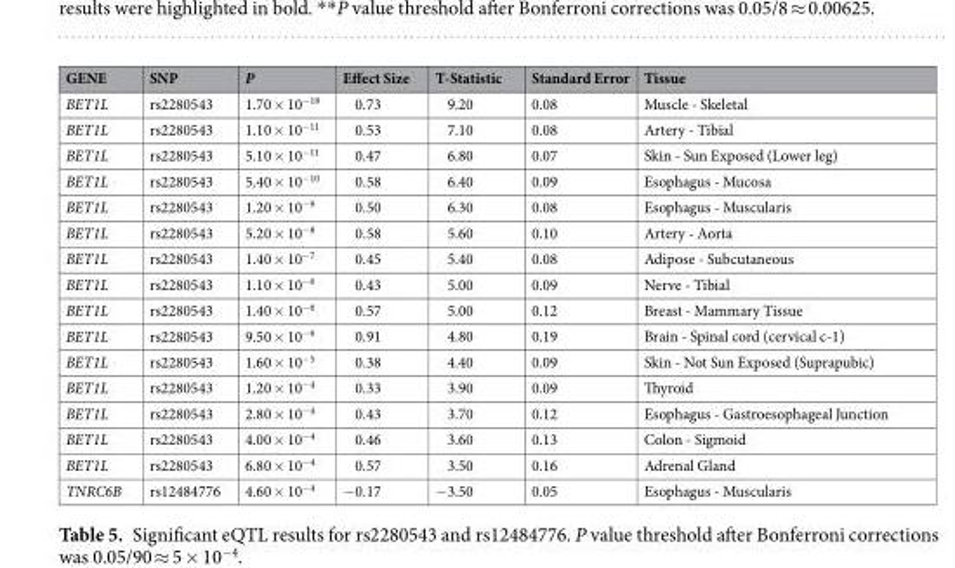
<table><thead><tr><td>GENE</td><td>SNP</td><td>P</td><td>Effect Size</td><td>T-Statistic</td><td>Standard Error</td><td>Tissue</td></tr></thead><tbody><tr><td>BET1L</td><td>rs2280543</td><td>1.70 × 10<sup>−18</sup></td><td>0.73</td><td>9.20</td><td>0.08</td><td>Muscle - Skeletal</td></tr><tr><td>BET1L</td><td>rs2280543</td><td>1.10 × 10<sup>−11</sup></td><td>0.53</td><td>7.10</td><td>0.08</td><td>Artery - Tibial</td></tr><tr><td>BET1L</td><td>rs2280543</td><td>5.10 × 10<sup>−11</sup></td><td>0.47</td><td>6.80</td><td>0.07</td><td>Skin - Sun Exposed (Lower leg)</td></tr><tr><td>BET1L</td><td>rs2280543</td><td>5.40 × 10<sup>−10</sup></td><td>0.58</td><td>6.40</td><td>0.09</td><td>Esophagus - Mucosa</td></tr><tr><td>BET1L</td><td>rs2280543</td><td>1.20 × 10<sup>−9</sup></td><td>0.50</td><td>6.30</td><td>0.08</td><td>Esophagus - Muscularis</td></tr><tr><td>BET1L</td><td>rs2280543</td><td>5.20 × 10<sup>−8</sup></td><td>0.58</td><td>5.60</td><td>0.10</td><td>Artery - Aorta</td></tr><tr><td>BET1L</td><td>rs2280543</td><td>1.40 × 10<sup>−7</sup></td><td>0.45</td><td>5.40</td><td>0.08</td><td>Adipose - Subcutaneous</td></tr><tr><td>BET1L</td><td>rs2280543</td><td>1.10 × 10<sup>−6</sup></td><td>0.43</td><td>5.00</td><td>0.09</td><td>Nerve - Tibial</td></tr><tr><td>BET1L</td><td>rs2280543</td><td>1.40 × 10<sup>−6</sup></td><td>0.57</td><td>5.00</td><td>0.12</td><td>Breast - Mammary Tissue</td></tr><tr><td>BET1L</td><td>rs2280543</td><td>9.50 × 10<sup>−6</sup></td><td>0.91</td><td>4.80</td><td>0.19</td><td>Brain - Spinal cord (cervical c-1)</td></tr><tr><td>BET1L</td><td>rs2280543</td><td>1.60 × 10<sup>−5</sup></td><td>0.38</td><td>4.40</td><td>0.09</td><td>Skin - Not Sun Exposed (Suprapubic)</td></tr><tr><td>BET1L</td><td>rs2280543</td><td>1.20 × 10<sup>−4</sup></td><td>0.33</td><td>3.90</td><td>0.09</td><td>Thyroid</td></tr><tr><td>BET1L</td><td>rs2280543</td><td>2.80 × 10<sup>−4</sup></td><td>0.43</td><td>3.70</td><td>0.12</td><td>Esophagus - Gastroesophageal Junction</td></tr><tr><td>BET1L</td><td>rs2280543</td><td>4.00 × 10<sup>−4</sup></td><td>0.46</td><td>3.60</td><td>0.13</td><td>Colon - Sigmoid</td></tr><tr><td>BET1L</td><td>rs2280543</td><td>6.80 × 10<sup>−4</sup></td><td>0.57</td><td>3.50</td><td>0.16</td><td>Adrenal Gland</td></tr><tr><td>TNRC6B</td><td>rs12484776</td><td>4.60 × 10<sup>−4</sup></td><td>−0.17</td><td>−3.50</td><td>0.05</td><td>Esophagus - Muscularis</td></tr></tbody></table>